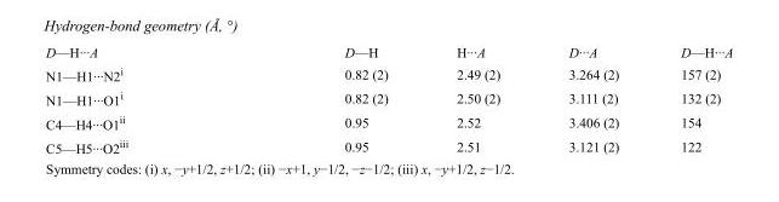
<table><tbody><tr><td>D—H···A</td><td>D—H</td><td>H···A</td><td>D···A</td><td>D—H···A</td></tr><tr><td>N1—H1···N2<sup>i</sup></td><td>0.82 (2)</td><td>2.49 (2)</td><td>3.264 (2)</td><td>157 (2)</td></tr><tr><td>N1—H1···O1<sup>i</sup></td><td>0.82 (2)</td><td>2.50 (2)</td><td>3.111 (2)</td><td>132 (2)</td></tr><tr><td>C4—H4···O1<sup>ii</sup></td><td>0.95</td><td>2.52</td><td>3.406 (2)</td><td>154</td></tr><tr><td>C5—H5···O2<sup>iii</sup></td><td>0.95</td><td>2.51</td><td>3.121 (2)</td><td>122</td></tr></tbody></table>